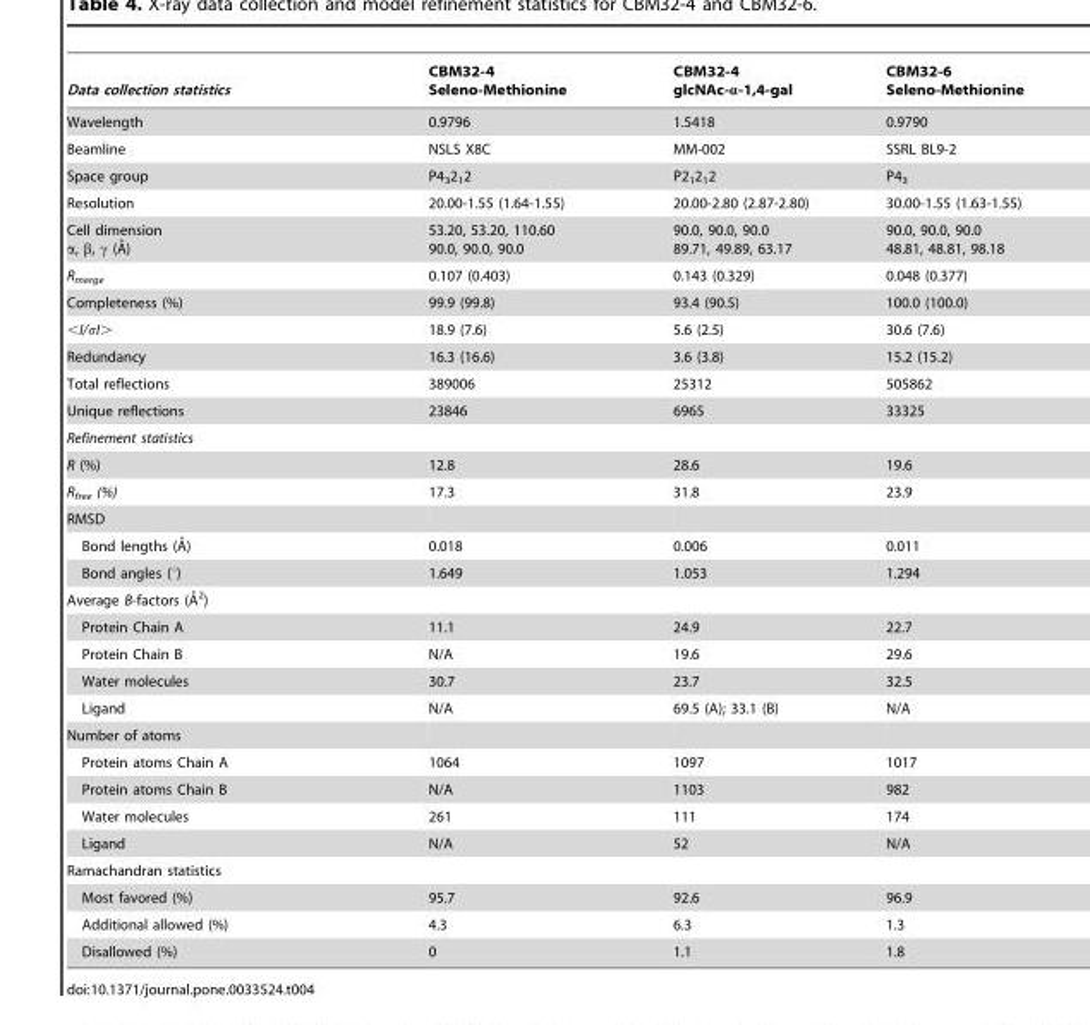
<table><thead><tr><td>Data collection statistics</td><td>CBM32-4 Seleno-Methionine</td><td>CBM32-4 glcNAc-α-1,4-gal</td><td>CBM32-6 Seleno-Methionine</td></tr></thead><tbody><tr><td>Wavelength</td><td>0.9796</td><td>1.5418</td><td>0.9790</td></tr><tr><td>Beamline</td><td>NSLS X8C</td><td>MM-002</td><td>SSRL BL9-2</td></tr><tr><td>Space group</td><td>P4<sub>3</sub>2<sub>1</sub>2</td><td>P2<sub>1</sub>2<sub>1</sub>2</td><td>P4<sub>3</sub></td></tr><tr><td>Resolution</td><td>20.00-1.55 (1.64-1.55)</td><td>20.00-2.80 (2.87-2.80)</td><td>30.00-1.55 (1.63-1.55)</td></tr><tr><td>Cell dimension a, b, c (A˚)</td><td>53.20, 53.20, 110.60 90.0, 90.0, 90.0</td><td>90.0, 90.0, 90.0 89.71, 49.89, 63.17</td><td>90.0, 90.0, 90.0 48.81, 48.81, 98.18</td></tr><tr><td>R<sub>merge</sub></td><td>0.107 (0.403)</td><td>0.143 (0.329)</td><td>0.048 (0.377)</td></tr><tr><td>Completeness (%)</td><td>99.9 (99.8)</td><td>93.4 (90.5)</td><td>100.0 (100.0)</td></tr><tr><td>&lt;I/σI&gt;</td><td>18.9 (7.6)</td><td>5.6 (2.5)</td><td>30.6 (7.6)</td></tr><tr><td>Redundancy</td><td>16.3 (16.6)</td><td>3.6 (3.8)</td><td>15.2 (15.2)</td></tr><tr><td>Total reflections</td><td>389006</td><td>25312</td><td>505862</td></tr><tr><td>Unique reflections</td><td>23846</td><td>6965</td><td>33325</td></tr><tr><td colspan="4">Refinement statistics</td></tr><tr><td>R (%)</td><td>12.8</td><td>28.6</td><td>19.6</td></tr><tr><td>R<sub>free</sub> (%)</td><td>17.3</td><td>31.8</td><td>23.9</td></tr><tr><td colspan="4">RMSD</td></tr><tr><td>Bond lengths (A˚)</td><td>0.018</td><td>0.006</td><td>0.011</td></tr><tr><td>Bond angles (°)</td><td>1.649</td><td>1.053</td><td>1.294</td></tr><tr><td colspan="4">Average B-factors (A˚2)</td></tr><tr><td>Protein Chain A</td><td>11.1</td><td>24.9</td><td>22.7</td></tr><tr><td>Protein Chain B</td><td>N/A</td><td>19.6</td><td>29.6</td></tr><tr><td>Water molecules</td><td>30.7</td><td>23.7</td><td>32.5</td></tr><tr><td>Ligand</td><td>N/A</td><td>69.5 (A); 33.1 (B)</td><td>N/A</td></tr><tr><td colspan="4">Number of atoms</td></tr><tr><td>Protein atoms Chain A</td><td>1064</td><td>1097</td><td>1017</td></tr><tr><td>Protein atoms Chain B</td><td>N/A</td><td>1103</td><td>982</td></tr><tr><td>Water molecules</td><td>261</td><td>111</td><td>174</td></tr><tr><td>Ligand</td><td>N/A</td><td>52</td><td>N/A</td></tr><tr><td colspan="4">Ramachandran statistics</td></tr><tr><td>Most favored (%)</td><td>95.7</td><td>92.6</td><td>96.9</td></tr><tr><td>Additional allowed (%)</td><td>4.3</td><td>6.3</td><td>1.3</td></tr><tr><td>Disallowed (%)</td><td>0</td><td>1.1</td><td>1.8</td></tr></tbody></table>